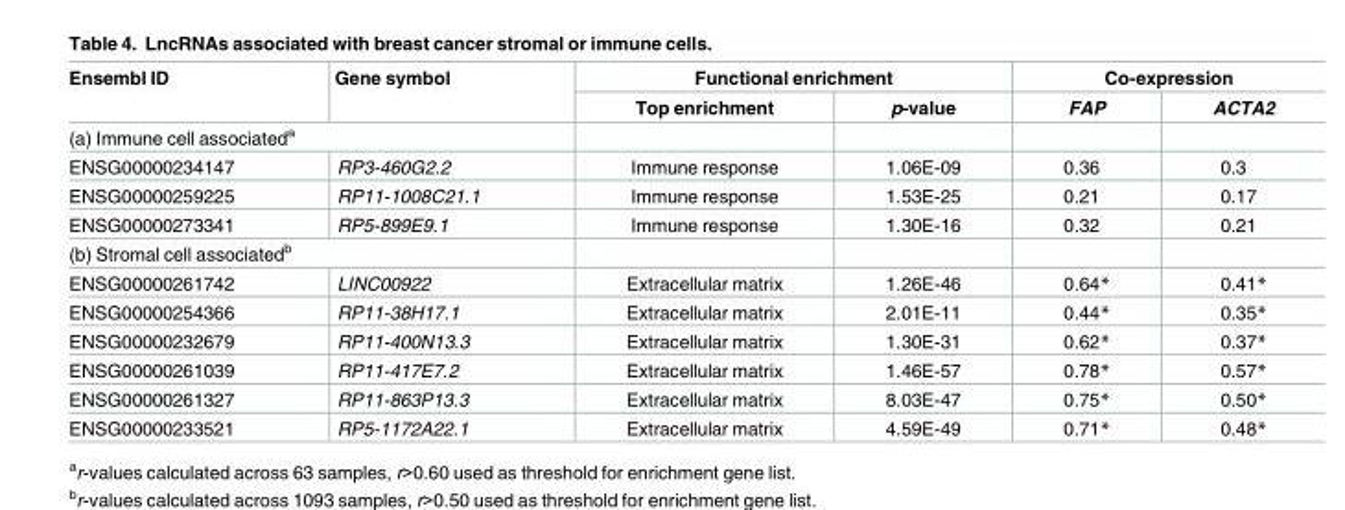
<table><thead><tr><td rowspan="2">Ensembl ID</td><td rowspan="2">Gene symbol</td><td colspan="2">Functional enrichment</td><td colspan="2">Co-expression</td></tr><tr><td>Top enrichment</td><td>p-value</td><td>FAP</td><td>ACTA2</td></tr></thead><tbody><tr><td colspan="6">(a) Immune cell associated<sup>a</sup></td></tr><tr><td>ENSG00000234147</td><td>RP3-460G2.2</td><td>Immune response</td><td>1.06E-09</td><td>0.36</td><td>0.3</td></tr><tr><td>ENSG00000259225</td><td>RP11-1008C21.1</td><td>Immune response</td><td>1.53E-25</td><td>0.21</td><td>0.17</td></tr><tr><td>ENSG00000273341</td><td>RP5-899E9.1</td><td>Immune response</td><td>1.30E-16</td><td>0.32</td><td>0.21</td></tr><tr><td colspan="6">(b) Stromal cell associated<sup>b</sup></td></tr><tr><td>ENSG00000261742</td><td>LINC00922</td><td>Extracellular matrix</td><td>1.26E-46</td><td>0.64*</td><td>0.41*</td></tr><tr><td>ENSG00000254366</td><td>RP11-38H17.1</td><td>Extracellular matrix</td><td>2.01E-11</td><td>0.44*</td><td>0.35*</td></tr><tr><td>ENSG00000232679</td><td>RP11-400N13.3</td><td>Extracellular matrix</td><td>1.30E-31</td><td>0.62*</td><td>0.37*</td></tr><tr><td>ENSG00000261039</td><td>RP11-417E7.2</td><td>Extracellular matrix</td><td>1.46E-57</td><td>0.78*</td><td>0.57*</td></tr><tr><td>ENSG00000261327</td><td>RP11-863P13.3</td><td>Extracellular matrix</td><td>8.03E-47</td><td>0.75*</td><td>0.50*</td></tr><tr><td>ENSG00000233521</td><td>RP5-1172A22.1</td><td>Extracellular matrix</td><td>4.59E-49</td><td>0.71*</td><td>0.48*</td></tr></tbody></table>